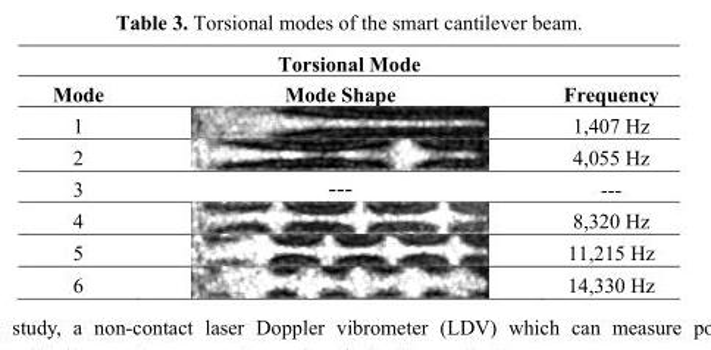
<table><thead><tr><td colspan="3">Torsional Mode</td></tr><tr><td>Mode</td><td>Mode Shape</td><td>Frequency</td></tr></thead><tbody><tr><td>1</td><td></td><td>1,407 Hz</td></tr><tr><td>2</td><td></td><td>4,055 Hz</td></tr><tr><td>3</td><td>---</td><td>---</td></tr><tr><td>4</td><td></td><td>8,320 Hz</td></tr><tr><td>5</td><td></td><td>11,215 Hz</td></tr><tr><td>6</td><td></td><td>14,330 Hz</td></tr></tbody></table>